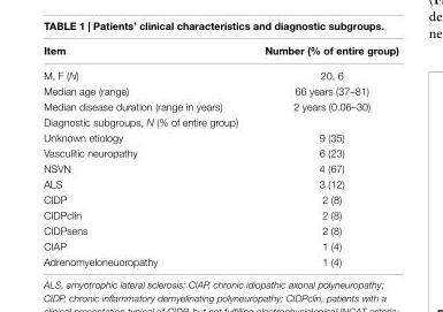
<table><thead><tr><td>item</td><td>number (% of entire group)</td></tr></thead><tbody><tr><td>M, F (N)</td><td>20, 6</td></tr><tr><td>Median age (range)</td><td>66 years (37–81)</td></tr><tr><td>Median disease duration (range in years)</td><td>2 years (0.06–30)</td></tr><tr><td colspan="2">Diagnostic subgroups, N (% of entire group)</td></tr><tr><td>Unknown etiology</td><td>9 (35)</td></tr><tr><td>Vasculitic neuropathy</td><td>6 (23)</td></tr><tr><td>NSVN</td><td>4 (67)</td></tr><tr><td>ALS</td><td>3 (12)</td></tr><tr><td>CIDP</td><td>2 (8)</td></tr><tr><td>CIDPclin</td><td>2 (8)</td></tr><tr><td>CIDPsens</td><td>2 (8)</td></tr><tr><td>CIAP</td><td>1 (4)</td></tr><tr><td>Adrenomyeloneuoropathy</td><td>1 (4)</td></tr></tbody></table>